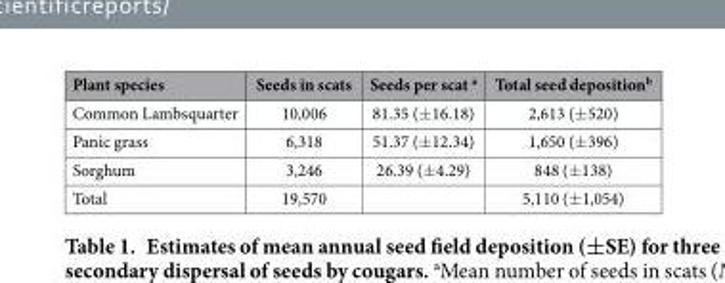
<table><thead><tr><td>Plant species</td><td>Seeds in scats</td><td>Seeds per scat a</td><td>Total seed deposition<sup>b</sup></td></tr></thead><tbody><tr><td>Common Lambsquarter</td><td>10,006</td><td>81.35 (±16.18)</td><td>2,613 (±520)</td></tr><tr><td>Panic grass</td><td>6,318</td><td>51.37 (±12.34)</td><td>1,650 (±396)</td></tr><tr><td>Sorghum</td><td>3,246</td><td>26.39 (±4.29)</td><td>848 (±138)</td></tr><tr><td>Total</td><td>19,570</td><td></td><td>5,110 (±1,054)</td></tr></tbody></table>